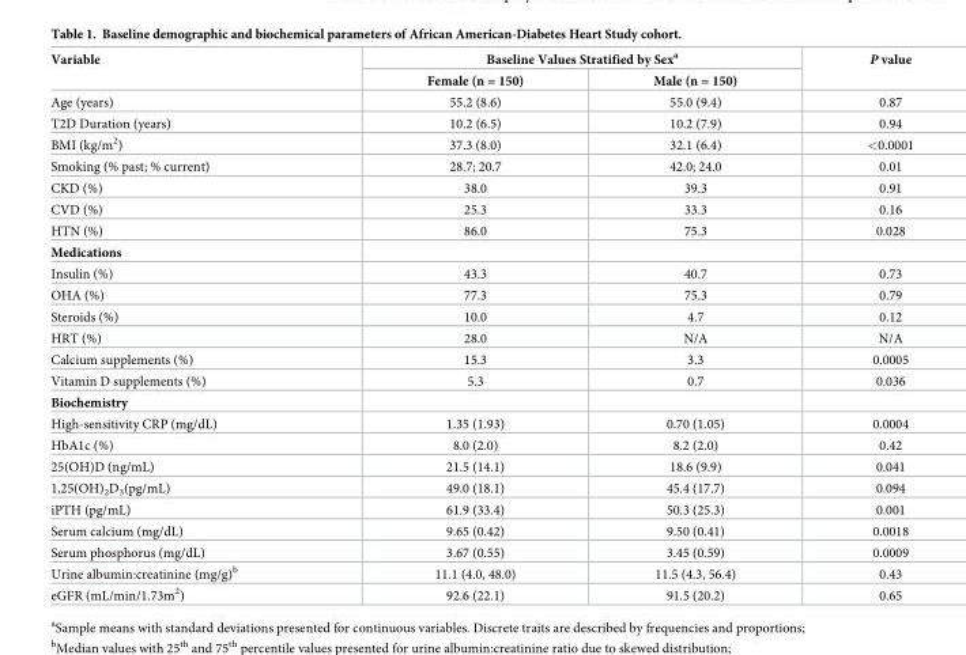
<table><thead><tr><td rowspan="2">Variable</td><td colspan="2">Baseline Values Stratified by Sex<sup>a</sup></td><td rowspan="2">P value</td></tr><tr><td>Female (n = 150)</td><td>Male (n = 150)</td></tr></thead><tbody><tr><td>Age (years)</td><td>55.2 (8.6)</td><td>55.0 (9.4)</td><td>0.87</td></tr><tr><td>T2D Duration (years)</td><td>10.2 (6.5)</td><td>10.2 (7.9)</td><td>0.94</td></tr><tr><td>BMI (kg/m<sup>2</sup>)</td><td>37.3 (8.0)</td><td>32.1 (6.4)</td><td>&lt;0.0001</td></tr><tr><td>Smoking (% past; % current)</td><td>28.7; 20.7</td><td>42.0; 24.0</td><td>0.01</td></tr><tr><td>CKD (%)</td><td>38.0</td><td>39.3</td><td>0.91</td></tr><tr><td>CVD (%)</td><td>25.3</td><td>33.3</td><td>0.16</td></tr><tr><td>HTN (%)</td><td>86.0</td><td>75.3</td><td>0.028</td></tr><tr><td colspan="4">Medications</td></tr><tr><td>Insulin (%)</td><td>43.3</td><td>40.7</td><td>0.73</td></tr><tr><td>OHA (%)</td><td>77.3</td><td>75.3</td><td>0.79</td></tr><tr><td>Steroids (%)</td><td>10.0</td><td>4.7</td><td>0.12</td></tr><tr><td>HRT (%)</td><td>28.0</td><td>N/A</td><td>N/A</td></tr><tr><td>Calcium supplements (%)</td><td>15.3</td><td>3.3</td><td>0.0005</td></tr><tr><td>Vitamin D supplements (%)</td><td>5.3</td><td>0.7</td><td>0.036</td></tr><tr><td colspan="4">Biochemistry</td></tr><tr><td>High-sensitivity CRP (mg/dL)</td><td>1.35 (1.93)</td><td>0.70 (1.05)</td><td>0.0004</td></tr><tr><td>HbA1c (%)</td><td>8.0 (2.0)</td><td>8.2 (2.0)</td><td>0.42</td></tr><tr><td>25(OH)D (ng/mL)</td><td>21.5 (14.1)</td><td>18.6 (9.9)</td><td>0.041</td></tr><tr><td>1,25(OH)<sub>2</sub>D<sub>3</sub>(pg/mL)</td><td>49.0 (18.1)</td><td>45.4 (17.7)</td><td>0.094</td></tr><tr><td>iPTH (pg/mL)</td><td>61.9 (33.4)</td><td>50.3 (25.3)</td><td>0.001</td></tr><tr><td>Serum calcium (mg/dL)</td><td>9.65 (0.42)</td><td>9.50 (0.41)</td><td>0.0018</td></tr><tr><td>Serum phosphorus (mg/dL)</td><td>3.67 (0.55)</td><td>3.45 (0.59)</td><td>0.0009</td></tr><tr><td>Urine albumin:creatinine (mg/g)<sup>b</sup></td><td>11.1 (4.0, 48.0)</td><td>11.5 (4.3, 56.4)</td><td>0.43</td></tr><tr><td>eGFR (mL/min/1.73m<sup>2</sup>)</td><td>92.6 (22.1)</td><td>91.5 (20.2)</td><td>0.65</td></tr></tbody></table>